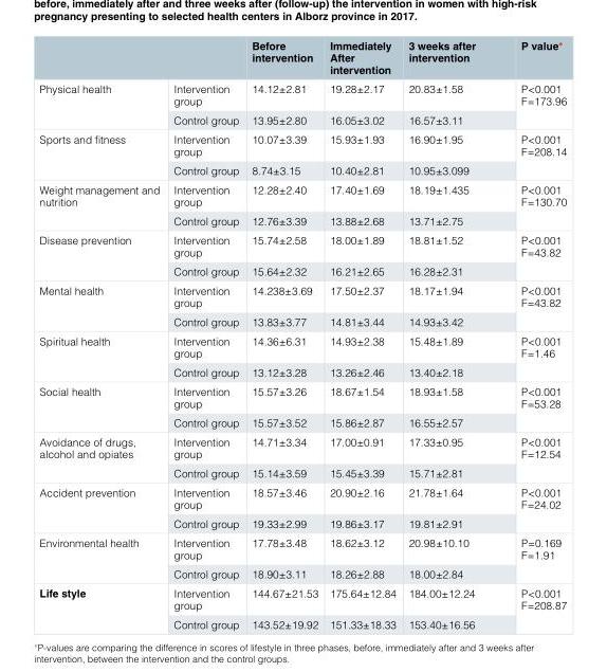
<table><thead><tr><td></td><td></td><td>Before intervention</td><td>Immediately After intervention</td><td>3 weeks after intervention</td><td>P value*</td></tr></thead><tbody><tr><td rowspan="2">Physical health</td><td>Intervention group</td><td>14.12±2.81</td><td>19.28±2.17</td><td>20.83±1.58</td><td rowspan="2">P&lt;0.001 F=173.96</td></tr><tr><td>Control group</td><td>13.95±2.80</td><td>16.05±3.02</td><td>16.57±3.11</td></tr><tr><td rowspan="2">Sports and fitness</td><td>Intervention group</td><td>10.07±3.39</td><td>15.93±1.93</td><td>16.90±1.95</td><td rowspan="2">P&lt;0.001 F=208.14</td></tr><tr><td>Control group</td><td>8.74±3.15</td><td>10.40±2.81</td><td>10.95±3.099</td></tr><tr><td rowspan="2">Weight management and nutrition</td><td>Intervention group</td><td>12.28±2.40</td><td>17.40±1.69</td><td>18.19±1.435</td><td rowspan="2">P&lt;0.001 F=130.70</td></tr><tr><td>Control group</td><td>12.76±3.39</td><td>13.88±2.68</td><td>13.71±2.75</td></tr><tr><td rowspan="2">Disease prevention</td><td>Intervention group</td><td>15.74±2.58</td><td>18.00±1.89</td><td>18.81±1.52</td><td rowspan="2">P&lt;0.001 F=43.82</td></tr><tr><td>Control group</td><td>15.64±2.32</td><td>16.21±2.65</td><td>16.28±2.31</td></tr><tr><td rowspan="2">Mental health</td><td>Intervention group</td><td>14.238±3.69</td><td>17.50±2.37</td><td>18.17±1.94</td><td rowspan="2">P&lt;0.001 F=43.82</td></tr><tr><td>Control group</td><td>13.83±3.77</td><td>14.81±3.44</td><td>14.93±3.42</td></tr><tr><td rowspan="2">Spiritual health</td><td>Intervention group</td><td>14.36±6.31</td><td>14.93±2.38</td><td>15.48±1.89</td><td rowspan="2">P&lt;0.001 F=1.46</td></tr><tr><td>Control group</td><td>13.12±3.28</td><td>13.26±2.46</td><td>13.40±2.18</td></tr><tr><td rowspan="2">Social health</td><td>Intervention group</td><td>15.57±3.26</td><td>18.67±1.54</td><td>18.93±1.58</td><td rowspan="2">P&lt;0.001 F=53.28</td></tr><tr><td>Control group</td><td>15.57±3.52</td><td>15.86±2.87</td><td>16.55±2.57</td></tr><tr><td rowspan="2">Avoidance of drugs, alcohol and opiates</td><td>Intervention group</td><td>14.71±3.34</td><td>17.00±0.91</td><td>17.33±0.95</td><td rowspan="2">P&lt;0.001 F=12.54</td></tr><tr><td>Control group</td><td>15.14±3.59</td><td>15.45±3.39</td><td>15.71±2.81</td></tr><tr><td rowspan="2">Accident prevention</td><td>Intervention group</td><td>18.57±3.46</td><td>20.90±2.16</td><td>21.78±1.64</td><td rowspan="2">P&lt;0.001 F=24.02</td></tr><tr><td>Control group</td><td>19.33±2.99</td><td>19.86±3.17</td><td>19.81±2.91</td></tr><tr><td rowspan="2">Environmental health</td><td>Intervention group</td><td>17.78±3.48</td><td>18.62±3.12</td><td>20.98±10.10</td><td rowspan="2">P=0.169 F=1.91</td></tr><tr><td>Control group</td><td>18.90±3.11</td><td>18.26±2.88</td><td>18.00±2.84</td></tr><tr><td rowspan="2">Life style</td><td>Intervention group</td><td>144.67±21.53</td><td>175.64±12.84</td><td>184.00±12.24</td><td rowspan="2">P&lt;0.001 F=208.87</td></tr><tr><td>Control group</td><td>143.52±19.92</td><td>151.33±18.33</td><td>153.40±16.56</td></tr></tbody></table>